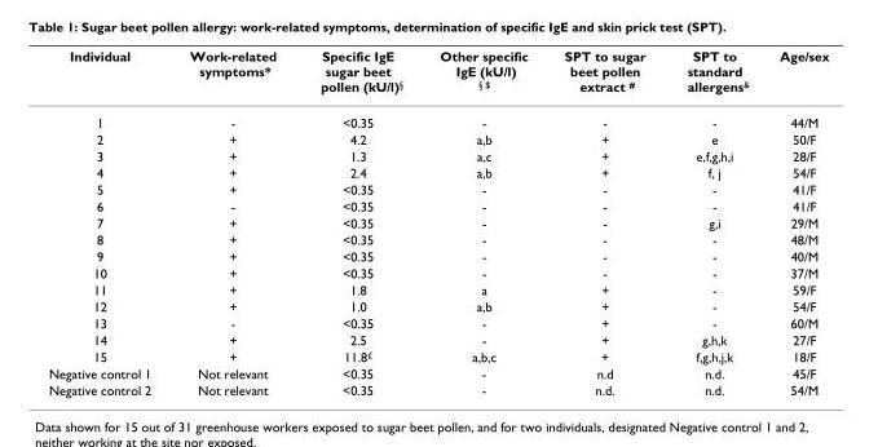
<table><thead><tr><td>Individual</td><td>Work-related symptoms*</td><td>Specific IgE sugar beet pollen (kU/l)<sup>§</sup></td><td>Other specific IgE (kU/l) <sup>§ $</sup></td><td>SPT to sugar beet pollen extract <sup>#</sup></td><td>SPT to standard allergens<sup>&amp;</sup></td><td>Age/sex</td></tr></thead><tbody><tr><td>1</td><td>-</td><td>&lt;0.35</td><td>-</td><td>-</td><td>-</td><td>44/M</td></tr><tr><td>2</td><td>+</td><td>4.2</td><td>a,b</td><td>+</td><td>e</td><td>50/F</td></tr><tr><td>3</td><td>+</td><td>1.3</td><td>a,c</td><td>+</td><td>e,f,g,h,i</td><td>28/F</td></tr><tr><td>4</td><td>+</td><td>2.4</td><td>a,b</td><td>+</td><td>f, j</td><td>54/F</td></tr><tr><td>5</td><td>+</td><td>&lt;0.35</td><td>-</td><td>-</td><td>-</td><td>41/F</td></tr><tr><td>6</td><td>-</td><td>&lt;0.35</td><td>-</td><td>-</td><td>-</td><td>41/F</td></tr><tr><td>7</td><td>+</td><td>&lt;0.35</td><td>-</td><td>-</td><td>g,i</td><td>29/M</td></tr><tr><td>8</td><td>+</td><td>&lt;0.35</td><td>-</td><td>-</td><td>-</td><td>48/M</td></tr><tr><td>9</td><td>+</td><td>&lt;0.35</td><td>-</td><td>-</td><td>-</td><td>40/M</td></tr><tr><td>10</td><td>+</td><td>&lt;0.35</td><td>-</td><td>-</td><td>-</td><td>37/M</td></tr><tr><td>11</td><td>+</td><td>1.8</td><td>a</td><td>+</td><td>-</td><td>59/F</td></tr><tr><td>12</td><td>+</td><td>1.0</td><td>a,b</td><td>+</td><td>-</td><td>54/F</td></tr><tr><td>13</td><td>-</td><td>&lt;0.35</td><td>-</td><td>+</td><td>-</td><td>60/M</td></tr><tr><td>14</td><td>+</td><td>2.5</td><td>-</td><td>+</td><td>g,h,k</td><td>27/F</td></tr><tr><td>15</td><td>+</td><td>11.8<sup>£</sup></td><td>a,b,c</td><td>+</td><td>f,g,h,j,k</td><td>18/F</td></tr><tr><td>Negative control 1</td><td>Not relevant</td><td>&lt;0.35</td><td>-</td><td>n.d</td><td>n.d.</td><td>45/F</td></tr><tr><td>Negative control 2</td><td>Not relevant</td><td>&lt;0.35</td><td>-</td><td>n.d.</td><td>n.d.</td><td>54/M</td></tr></tbody></table>